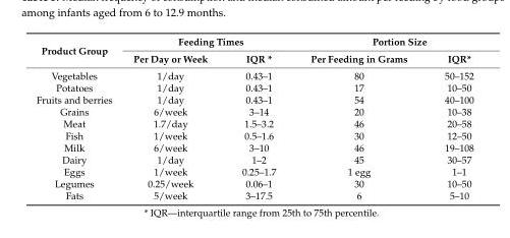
<table><thead><tr><td rowspan="2">Product Group</td><td colspan="2">Feeding Times</td><td colspan="2">Portion Size</td></tr><tr><td>Per Day or Week</td><td>IQR *</td><td>Per Feeding in Grams</td><td>IQR*</td></tr></thead><tbody><tr><td>Vegetables</td><td>1/day</td><td>0.43–1</td><td>80</td><td>50–152</td></tr><tr><td>Potatoes</td><td>1/day</td><td>0.43–1</td><td>17</td><td>10–50</td></tr><tr><td>Fruits and berries</td><td>1/day</td><td>0.43–1</td><td>54</td><td>40–100</td></tr><tr><td>Grains</td><td>6/week</td><td>3–14</td><td>20</td><td>10–38</td></tr><tr><td>Meat</td><td>1.7/day</td><td>1.5–3.2</td><td>46</td><td>20–58</td></tr><tr><td>Fish</td><td>1/week</td><td>0.5–1.6</td><td>30</td><td>12–50</td></tr><tr><td>Milk</td><td>6/week</td><td>3–10</td><td>46</td><td>19–108</td></tr><tr><td>Dairy</td><td>1/day</td><td>1–2</td><td>45</td><td>30–57</td></tr><tr><td>Eggs</td><td>1/week</td><td>0.25–1.7</td><td>1 egg</td><td>1–1</td></tr><tr><td>Legumes</td><td>0.25/week</td><td>0.06–1</td><td>30</td><td>10–50</td></tr><tr><td>Fats</td><td>5/week</td><td>3–17.5</td><td>6</td><td>5–10</td></tr></tbody></table>